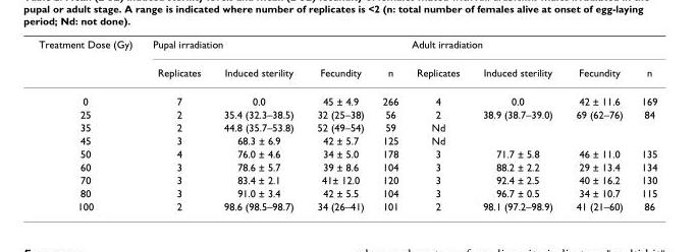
<table><thead><tr><td rowspan="2">Treatment Dose (Gy)</td><td colspan="4">Pupal irradiation</td><td colspan="4">Adult irradiation</td></tr><tr><td>Replicates</td><td>Induced sterility</td><td>Fecundity</td><td>n</td><td>Replicates</td><td>Induced sterility</td><td>Fecundity</td><td>n</td></tr></thead><tbody><tr><td>0</td><td>7</td><td>0.0</td><td>45 ± 4.9</td><td>266</td><td>4</td><td>0.0</td><td>42 ± 11.6</td><td>169</td></tr><tr><td>25</td><td>2</td><td>35.4 (32.3–38.5)</td><td>32 (25–38)</td><td>56</td><td>2</td><td>38.9 (38.7–39.0)</td><td>69 (62–76)</td><td>84</td></tr><tr><td>35</td><td>2</td><td>44.8 (35.7–53.8)</td><td>52 (49–54)</td><td>59</td><td>Nd</td><td></td><td></td><td></td></tr><tr><td>45</td><td>3</td><td>68.3 ± 6.9</td><td>42 ± 5.7</td><td>125</td><td>Nd</td><td></td><td></td><td></td></tr><tr><td>50</td><td>4</td><td>76.0 ± 4.6</td><td>34 ± 5.0</td><td>178</td><td>3</td><td>71.7 ± 5.8</td><td>46 ± 11.0</td><td>135</td></tr><tr><td>60</td><td>3</td><td>78.6 ± 5.7</td><td>39 ± 8.6</td><td>104</td><td>3</td><td>88.2 ± 2.2</td><td>29 ± 13.4</td><td>134</td></tr><tr><td>70</td><td>3</td><td>83.4 ± 2.1</td><td>41± 12.0</td><td>120</td><td>3</td><td>92.4 ± 2.5</td><td>40 ± 16.2</td><td>130</td></tr><tr><td>80</td><td>3</td><td>91.0 ± 3.4</td><td>42 ± 5.5</td><td>104</td><td>3</td><td>96.7 ± 0.5</td><td>34 ± 10.7</td><td>115</td></tr><tr><td>100</td><td>2</td><td>98.6 (98.5–98.7)</td><td>34 (26–41)</td><td>101</td><td>2</td><td>98.1 (97.2–98.9)</td><td>41 (21–60)</td><td>86</td></tr></tbody></table>